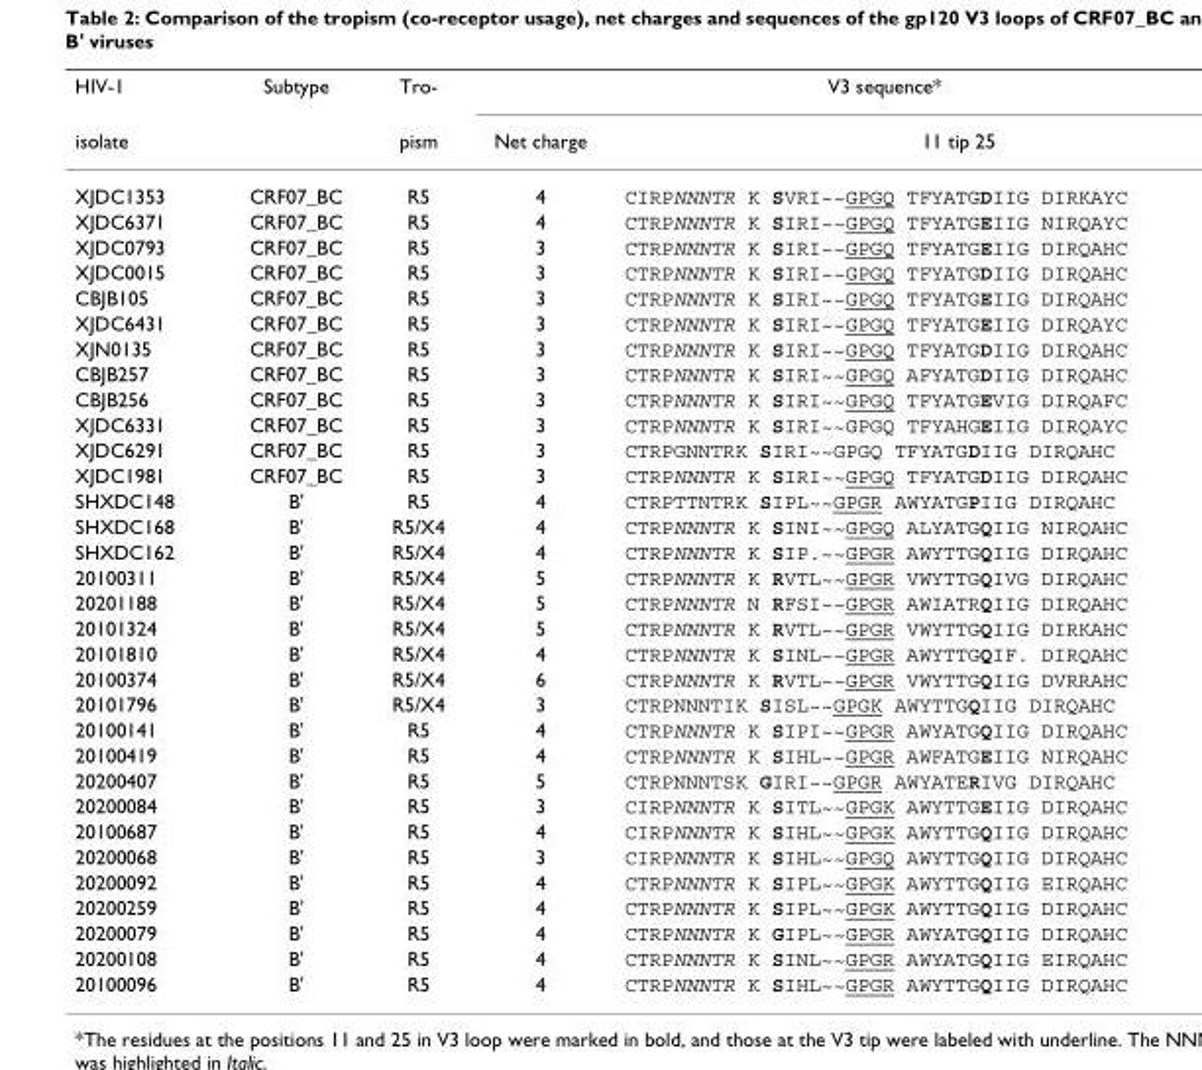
<table><thead><tr><td rowspan="2">HIV-1 isolate</td><td rowspan="2">Subtype</td><td rowspan="2">Tro- pism</td><td colspan="2">V3 sequence*</td></tr><tr><td>Net charge</td><td>11 tip 25</td></tr></thead><tbody><tr><td>XJDC1353</td><td>CRF07_BC</td><td>R5</td><td>4</td><td>CIRPNNNTR K SVRI~~GPGQ TFYATGDIIG DIRKAYC</td></tr><tr><td>XJDC6371</td><td>CRF07_BC</td><td>R5</td><td>4</td><td>CTRPNNNTR K SIRI~~GPGQ TFYATGEIIG NIRQAYC</td></tr><tr><td>XJDC0793</td><td>CRF07_BC</td><td>R5</td><td>3</td><td>CTRPNNNTR K SIRI~~GPGQ TFYATGEIIG DIRQAHC</td></tr><tr><td>XJDC0015</td><td>CRF07_BC</td><td>R5</td><td>3</td><td>CTRPNNNTR K SIRI~~GPGQ TFYATGDIIG DIRQAHC</td></tr><tr><td>CBJB105</td><td>CRF07_BC</td><td>R5</td><td>3</td><td>CTRPNNNTR K SIRI~~GPGQ TFYATGEIIG DIRQAHC</td></tr><tr><td>XJDC6431</td><td>CRF07_BC</td><td>R5</td><td>3</td><td>CTRPNNNTR K SIRI~~GPGQ TFYATGEIIG DIRQAYC</td></tr><tr><td>XJN0135</td><td>CRF07_BC</td><td>R5</td><td>3</td><td>CTRPNNNTR K SIRI~~GPGQ TFYATGDIIG DIRQAHC</td></tr><tr><td>CBJB257</td><td>CRF07_BC</td><td>R5</td><td>3</td><td>CTRPNNNTR K SIRI~~GPGQ AFYATGDIIG DIRQAHC</td></tr><tr><td>CBJB256</td><td>CRF07_BC</td><td>R5</td><td>3</td><td>CTRPNNNTR K SIRI~~GPGQ TFYATGEVIG DIRQAFC</td></tr><tr><td>XJDC6331</td><td>CRF07_BC</td><td>R5</td><td>3</td><td>CTRPNNNTR K SIRI~~GPGQ TFYAHGEIIG DIRQAYC</td></tr><tr><td>XJDC6291</td><td>CRF07_BC</td><td>R5</td><td>3</td><td>CTRPGNNTRK SIRI~~GPGQ TFYATGDIIG DIRQAHC</td></tr><tr><td>XJDC1981</td><td>CRF07_BC</td><td>R5</td><td>3</td><td>CTRPNNNTR K SIRI~~GPGQ TFYATGDIIG DIRQAHC</td></tr><tr><td>SHXDC148</td><td>B&#x27;</td><td>R5</td><td>4</td><td>CTRPTTNTRK SIPL~~GPGR AWYATGPIIG DIRQAHC</td></tr><tr><td>SHXDC168</td><td>B&#x27;</td><td>R5/X4</td><td>4</td><td>CTRPNNNTR K SINI~~GPGQ ALYATGQIIG NIRQAHC</td></tr><tr><td>SHXDC162</td><td>B&#x27;</td><td>R5/X4</td><td>4</td><td>CTRPNNNTR K SIP.~~GPGR AWYTTGQIIG DIRQAHC</td></tr><tr><td>20100311</td><td>B&#x27;</td><td>R5/X4</td><td>5</td><td>CTRPNNNTR K RVTL~~GPGR VWYTTGQIVG DIRQAHC</td></tr><tr><td>20201188</td><td>B&#x27;</td><td>R5/X4</td><td>5</td><td>CTRPNNNTR N RFSI~~GPGR AWIATRQIIG DIRQAHC</td></tr><tr><td>20101324</td><td>B&#x27;</td><td>R5/X4</td><td>5</td><td>CTRPNNNTR K RVTL~~GPGR VWYTTGQIIG DIRKAHC</td></tr><tr><td>20101810</td><td>B&#x27;</td><td>R5/X4</td><td>4</td><td>CTRPNNNTR K SINL~~GPGR AWYTTGQIF. DIRQAHC</td></tr><tr><td>20100374</td><td>B&#x27;</td><td>R5/X4</td><td>6</td><td>CTRPNNNTR K RVTL~~GPGR VWYTTGQIIG DVRRAHC</td></tr><tr><td>20101796</td><td>B&#x27;</td><td>R5/X4</td><td>3</td><td>CTRPNNNTIK SISL~~GPGK AWYTTGQIIG DIRQAHC</td></tr><tr><td>20100141</td><td>B&#x27;</td><td>R5</td><td>4</td><td>CTRPNNNTR K SIPI~~GPGR AWYATGQIIG DIRQAHC</td></tr><tr><td>20100419</td><td>B&#x27;</td><td>R5</td><td>4</td><td>CTRPNNNTR K SIHL~~GPGR AWFATGEIIG NIRQAHC</td></tr><tr><td>20200407</td><td>B&#x27;</td><td>R5</td><td>5</td><td>CTRPNNNTSK GIRI~~GPGR AWYATERIVG DIRQAHC</td></tr><tr><td>20200084</td><td>B&#x27;</td><td>R5</td><td>3</td><td>CIRPNNNTR K SITL~~GPGK AWYTTGEIIG DIRQAHC</td></tr><tr><td>20100687</td><td>B&#x27;</td><td>R5</td><td>4</td><td>CIRPNNNTR K SIHL~~GPGK AWYTTGQIIG DIRQAHC</td></tr><tr><td>20200068</td><td>B&#x27;</td><td>R5</td><td>3</td><td>CIRPNNNTR K SIHL~~GPGQ AWYTTGQIIG DIRQAHC</td></tr><tr><td>20200092</td><td>B&#x27;</td><td>R5</td><td>4</td><td>CTRPNNNTR K SIPL~~GPGK AWYTTGQIIG EIRQAHC</td></tr><tr><td>20200259</td><td>B&#x27;</td><td>R5</td><td>4</td><td>CTRPNNNTR K SIPL~~GPGK AWYTTGQIIG DIRQAHC</td></tr><tr><td>20200079</td><td>B&#x27;</td><td>R5</td><td>4</td><td>CTRPNNNTR K GIPL~~GPGR AWYATGQIIG DIRQAHC</td></tr><tr><td>20200108</td><td>B&#x27;</td><td>R5</td><td>4</td><td>CTRPNNNTR K SINL~~GPGR AWYATGQIIG EIRQAHC</td></tr><tr><td>20100096</td><td>B&#x27;</td><td>R5</td><td>4</td><td>CTRPNNNTR K SIHL~~GPGR AWYTTGQIIG DIRQAHC</td></tr></tbody></table>